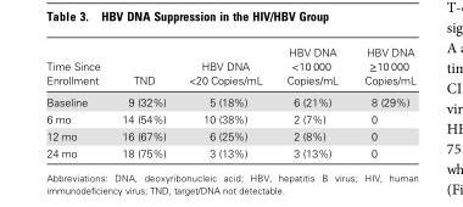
<table><thead><tr><td>Time Since Enrollment</td><td>TND</td><td>HBV DNA &lt;20 Copies/mL</td><td>HBV DNA &lt;10 000 Copies/mL</td><td>HBV DNA ≥10 000 Copies/mL</td></tr></thead><tbody><tr><td>Baseline</td><td>9 (32%)</td><td>5 (18%)</td><td>6 (21%)</td><td>8 (29%)</td></tr><tr><td>6 mo</td><td>14 (54%)</td><td>10 (38%)</td><td>2 (7%)</td><td>0</td></tr><tr><td>12 mo</td><td>16 (67%)</td><td>6 (25%)</td><td>2 (8%)</td><td>0</td></tr><tr><td>24 mo</td><td>18 (75%)</td><td>3 (13%)</td><td>3 (13%)</td><td>0</td></tr></tbody></table>